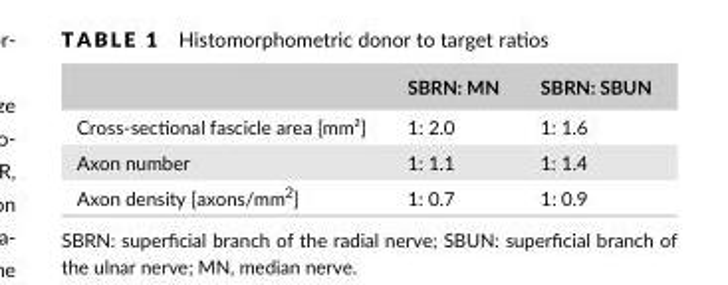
<table><thead><tr><td></td><td>SBRN: MN</td><td>SBRN: SBUN</td></tr></thead><tbody><tr><td>Cross- sectional fascicle area [mm²]</td><td>1: 2.0</td><td>1: 1.6</td></tr><tr><td>Axon number</td><td>1: 1.1</td><td>1: 1.4</td></tr><tr><td>Axon density [axons/mm<sup>2</sup>]</td><td>1: 0.7</td><td>1: 0.9</td></tr></tbody></table>